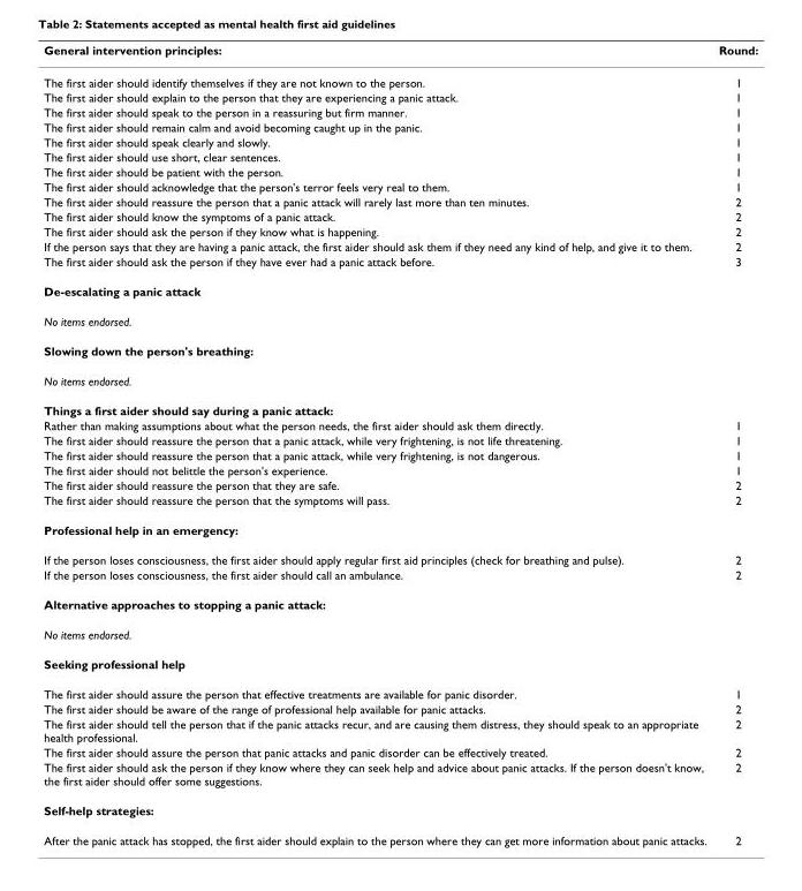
<table><thead><tr><td>General intervention principles:</td><td>Round:</td></tr></thead><tbody><tr><td>The first aider should identify themselves if they are not known to the person.</td><td>1</td></tr><tr><td>The first aider should explain to the person that they are experiencing a panic attack.</td><td>1</td></tr><tr><td>The first aider should speak to the person in a reassuring but firm manner.</td><td>1</td></tr><tr><td>The first aider should remain calm and avoid becoming caught up in the panic.</td><td>1</td></tr><tr><td>The first aider should speak clearly and slowly.</td><td>1</td></tr><tr><td>The first aider should use short, clear sentences.</td><td>1</td></tr><tr><td>The first aider should be patient with the person.</td><td>1</td></tr><tr><td>The first aider should acknowledge that the person&#x27;s terror feels very real to them.</td><td>1</td></tr><tr><td>The first aider should reassure the person that a panic attack will rarely last more than ten minutes.</td><td>2</td></tr><tr><td>The first aider should know the symptoms of a panic attack.</td><td>2</td></tr><tr><td>The first aider should ask the person if they know what is happening.</td><td>2</td></tr><tr><td>If the person says that they are having a panic attack, the first aider should ask them if they need any kind of help, and give it to them.</td><td>2</td></tr><tr><td>The first aider should ask the person if they have ever had a panic attack before.</td><td>3</td></tr><tr><td colspan="2">De-escalating a panic attack</td></tr><tr><td colspan="2">No items endorsed.</td></tr><tr><td colspan="2">Slowing down the person&#x27;s breathing:</td></tr><tr><td colspan="2">No items endorsed.</td></tr><tr><td colspan="2">Things a first aider should say during a panic attack:</td></tr><tr><td>Rather than making assumptions about what the person needs, the first aider should ask them directly.</td><td>1</td></tr><tr><td>The first aider should reassure the person that a panic attack, while very frightening, is not life threatening.</td><td>1</td></tr><tr><td>The first aider should reassure the person that a panic attack, while very frightening, is not dangerous.</td><td>1</td></tr><tr><td>The first aider should not belittle the person&#x27;s experience.</td><td>1</td></tr><tr><td>The first aider should reassure the person that they are safe.</td><td>2</td></tr><tr><td>The first aider should reassure the person that the symptoms will pass.</td><td>2</td></tr><tr><td colspan="2">Professional help in an emergency:</td></tr><tr><td>If the person loses consciousness, the first aider should apply regular first aid principles (check for breathing and pulse).</td><td>2</td></tr><tr><td>If the person loses consciousness, the first aider should call an ambulance.</td><td>2</td></tr><tr><td colspan="2">Alternative approaches to stopping a panic attack:</td></tr><tr><td colspan="2">No items endorsed.</td></tr><tr><td colspan="2">Seeking professional help</td></tr><tr><td>The first aider should assure the person that effective treatments are available for panic disorder.</td><td>1</td></tr><tr><td>The first aider should be aware of the range of professional help available for panic attacks.</td><td>2</td></tr><tr><td>The first aider should tell the person that if the panic attacks recur, and are causing them distress, they should speak to an appropriate health professional.</td><td>2</td></tr><tr><td>The first aider should assure the person that panic attacks and panic disorder can be effectively treated.</td><td>2</td></tr><tr><td>The first aider should ask the person if they know where they can seek help and advice about panic attacks. If the person doesn&#x27;t know, the first aider should offer some suggestions.</td><td>2</td></tr><tr><td colspan="2">Self-help strategies:</td></tr><tr><td>After the panic attack has stopped, the first aider should explain to the person where they can get more information about panic attacks.</td><td>2</td></tr></tbody></table>